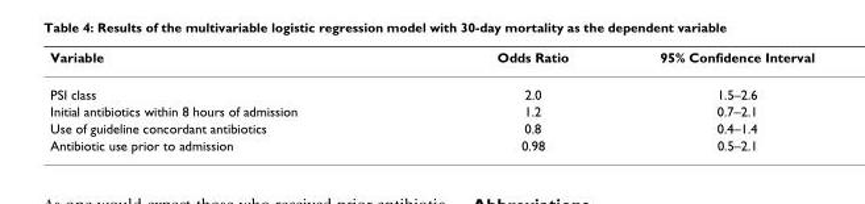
<table><thead><tr><td>Variable</td><td>Odds Ratio</td><td>95% Confidence Interval</td></tr></thead><tbody><tr><td>PSI class</td><td>2.0</td><td>1.5–2.6</td></tr><tr><td>Initial antibiotics within 8 hours of admission</td><td>1.2</td><td>0.7–2.1</td></tr><tr><td>Use of guideline concordant antibiotics</td><td>0.8</td><td>0.4–1.4</td></tr><tr><td>Antibiotic use prior to admission</td><td>0.98</td><td>0.5–2.1</td></tr></tbody></table>